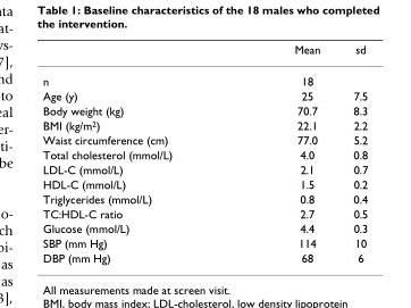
<table><thead><tr><td></td><td>Mean</td><td>sd</td></tr></thead><tbody><tr><td>n</td><td>18</td><td></td></tr><tr><td>Age (y)</td><td>25</td><td>7.5</td></tr><tr><td>Body weight (kg)</td><td>70.7</td><td>8.3</td></tr><tr><td>BMI (kg/m<sup>2</sup>)</td><td>22.1</td><td>2.2</td></tr><tr><td>Waist circumference (cm)</td><td>77.0</td><td>5.2</td></tr><tr><td>Total cholesterol (mmol/L)</td><td>4.0</td><td>0.8</td></tr><tr><td>LDL-C (mmol/L)</td><td>2.1</td><td>0.7</td></tr><tr><td>HDL-C (mmol/L)</td><td>1.5</td><td>0.2</td></tr><tr><td>Triglycerides (mmol/L)</td><td>0.8</td><td>0.4</td></tr><tr><td>TC:HDL-C ratio</td><td>2.7</td><td>0.5</td></tr><tr><td>Glucose (mmol/L)</td><td>4.4</td><td>0.3</td></tr><tr><td>SBP (mm Hg)</td><td>114</td><td>10</td></tr><tr><td>DBP (mm Hg)</td><td>68</td><td>6</td></tr></tbody></table>